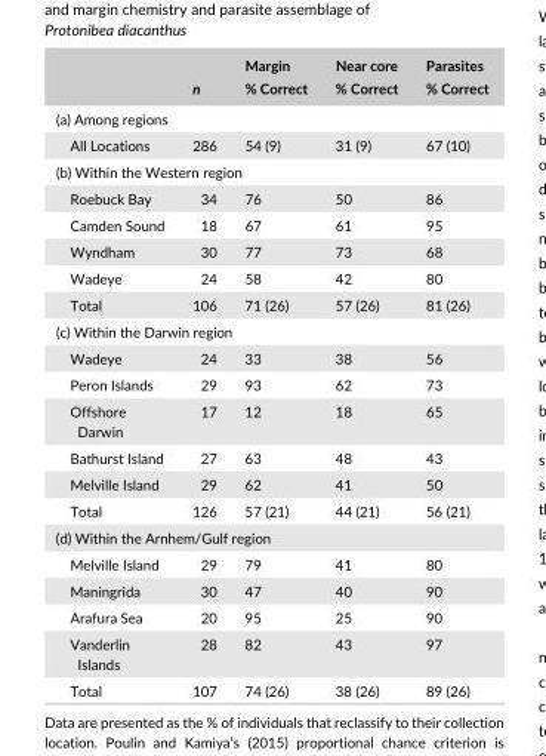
<table><thead><tr><td rowspan="2"></td><td rowspan="2">n</td><td rowspan="2">Margin % Correct</td><td rowspan="2">Near core % Correct</td><td rowspan="2">Parasites % Correct</td></tr><tr></tr></thead><tbody><tr><td colspan="5">(a) Among regions</td></tr><tr><td>All Locations</td><td>286</td><td>54 (9)</td><td>31 (9)</td><td>67 (10)</td></tr><tr><td colspan="5">(b) Within the Western region</td></tr><tr><td>Roebuck Bay</td><td>34</td><td>76</td><td>50</td><td>86</td></tr><tr><td>Camden Sound</td><td>18</td><td>67</td><td>61</td><td>95</td></tr><tr><td>Wyndham</td><td>30</td><td>77</td><td>73</td><td>68</td></tr><tr><td>Wadeye</td><td>24</td><td>58</td><td>42</td><td>80</td></tr><tr><td>Total</td><td>106</td><td>71 (26)</td><td>57 (26)</td><td>81 (26)</td></tr><tr><td colspan="5">(c) Within the Darwin region</td></tr><tr><td>Wadeye</td><td>24</td><td>33</td><td>38</td><td>56</td></tr><tr><td>Peron Islands</td><td>29</td><td>93</td><td>62</td><td>73</td></tr><tr><td>Offshore Darwin</td><td>17</td><td>12</td><td>18</td><td>65</td></tr><tr><td>Bathurst Island</td><td>27</td><td>63</td><td>48</td><td>43</td></tr><tr><td>Melville Island</td><td>29</td><td>62</td><td>41</td><td>50</td></tr><tr><td>Total</td><td>126</td><td>57 (21)</td><td>44 (21)</td><td>56 (21)</td></tr><tr><td colspan="5">(d) Within the Arnhem/Gulf region</td></tr><tr><td>Melville Island</td><td>29</td><td>79</td><td>41</td><td>80</td></tr><tr><td>Maningrida</td><td>30</td><td>47</td><td>40</td><td>90</td></tr><tr><td>Arafura Sea</td><td>20</td><td>95</td><td>25</td><td>90</td></tr><tr><td>Vanderlin Islands</td><td>28</td><td>82</td><td>43</td><td>97</td></tr><tr><td>Total</td><td>107</td><td>74 (26)</td><td>38 (26)</td><td>89 (26)</td></tr></tbody></table>